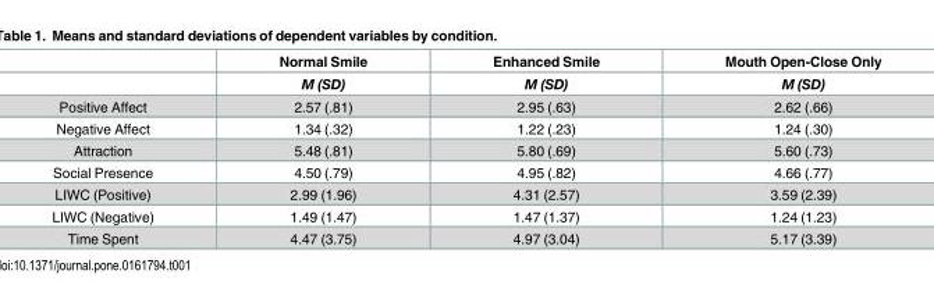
<table><thead><tr><td rowspan="2"></td><td rowspan="2">Normal Smile M (SD)</td><td rowspan="2">Enhanced Smile M (SD)</td><td rowspan="2">Mouth Open-Close Only M (SD)</td></tr><tr></tr></thead><tbody><tr><td>Positive Affect</td><td>2.57 (.81)</td><td>2.95 (.63)</td><td>2.62 (.66)</td></tr><tr><td>Negative Affect</td><td>1.34 (.32)</td><td>1.22 (.23)</td><td>1.24 (.30)</td></tr><tr><td>Attraction</td><td>5.48 (.81)</td><td>5.80 (.69)</td><td>5.60 (.73)</td></tr><tr><td>Social Presence</td><td>4.50 (.79)</td><td>4.95 (.82)</td><td>4.66 (.77)</td></tr><tr><td>LIWC (Positive)</td><td>2.99 (1.96)</td><td>4.31 (2.57)</td><td>3.59 (2.39)</td></tr><tr><td>LIWC (Negative)</td><td>1.49 (1.47)</td><td>1.47 (1.37)</td><td>1.24 (1.23)</td></tr><tr><td>Time Spent</td><td>4.47 (3.75)</td><td>4.97 (3.04)</td><td>5.17 (3.39)</td></tr></tbody></table>